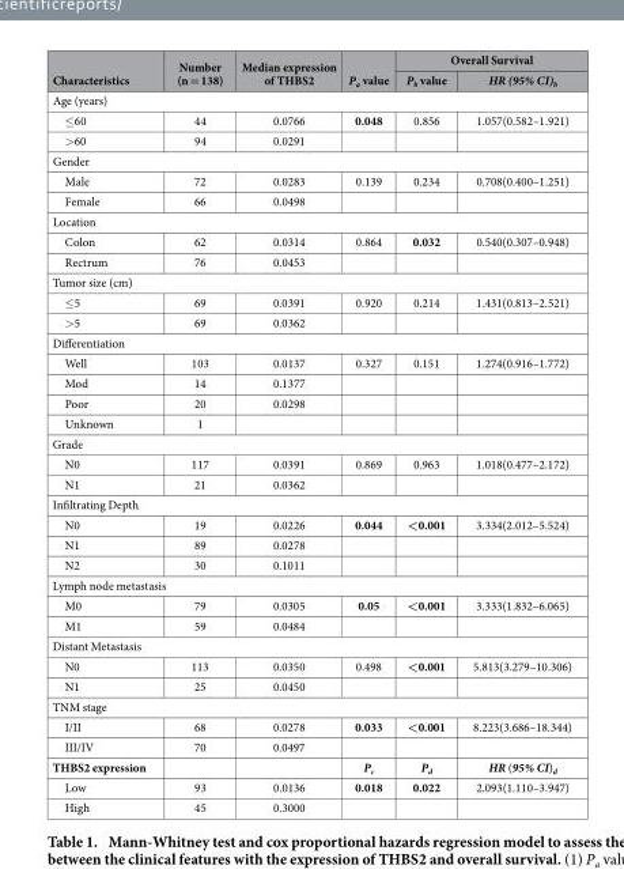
<table><thead><tr><td rowspan="2">Characteristics</td><td rowspan="2">Number (n = 138)</td><td rowspan="2">Median expression of THBS2</td><td rowspan="2">P<sub>a</sub> value</td><td colspan="2">Overall Survival</td></tr><tr><td>P<sub>b</sub> value</td><td>HR (95% CI)<sub>b</sub></td></tr></thead><tbody><tr><td colspan="6">Age (years)</td></tr><tr><td>≤ 60</td><td>44</td><td>0.0766</td><td>0.048</td><td>0.856</td><td>1.057(0.582–1.921)</td></tr><tr><td>&gt; 60</td><td>94</td><td>0.0291</td><td></td><td></td><td></td></tr><tr><td colspan="6">Gender</td></tr><tr><td>Male</td><td>72</td><td>0.0283</td><td>0.139</td><td>0.234</td><td>0.708(0.400–1.251)</td></tr><tr><td>Female</td><td>66</td><td>0.0498</td><td></td><td></td><td></td></tr><tr><td colspan="6">Location</td></tr><tr><td>Colon</td><td>62</td><td>0.0314</td><td>0.864</td><td>0.032</td><td>0.540(0.307–0.948)</td></tr><tr><td>Rectrum</td><td>76</td><td>0.0453</td><td></td><td></td><td></td></tr><tr><td colspan="6">Tumor size (cm)</td></tr><tr><td>≤ 5</td><td>69</td><td>0.0391</td><td>0.920</td><td>0.214</td><td>1.431(0.813–2.521)</td></tr><tr><td>&gt; 5</td><td>69</td><td>0.0362</td><td></td><td></td><td></td></tr><tr><td colspan="6">Differentiation</td></tr><tr><td>Well</td><td>103</td><td>0.0137</td><td>0.327</td><td>0.151</td><td>1.274(0.916–1.772)</td></tr><tr><td>Mod</td><td>14</td><td>0.1377</td><td></td><td></td><td></td></tr><tr><td>Poor</td><td>20</td><td>0.0298</td><td></td><td></td><td></td></tr><tr><td>Unknown</td><td>1</td><td></td><td></td><td></td><td></td></tr><tr><td colspan="6">Grade</td></tr><tr><td>N0</td><td>117</td><td>0.0391</td><td>0.869</td><td>0.963</td><td>1.018(0.477–2.172)</td></tr><tr><td>N1</td><td>21</td><td>0.0362</td><td></td><td></td><td></td></tr><tr><td colspan="6">Infiltrating Depth</td></tr><tr><td>N0</td><td>19</td><td>0.0226</td><td>0.044</td><td>&lt;0.001</td><td>3.334(2.012–5.524)</td></tr><tr><td>N1</td><td>89</td><td>0.0278</td><td></td><td></td><td></td></tr><tr><td>N2</td><td>30</td><td>0.1011</td><td></td><td></td><td></td></tr><tr><td colspan="6">Lymph node metastasis</td></tr><tr><td>M0</td><td>79</td><td>0.0305</td><td>0.05</td><td>&lt;0.001</td><td>3.333(1.832–6.065)</td></tr><tr><td>M1</td><td>59</td><td>0.0484</td><td></td><td></td><td></td></tr><tr><td colspan="6">Distant Metastasis</td></tr><tr><td>N0</td><td>113</td><td>0.0350</td><td>0.498</td><td>&lt;0.001</td><td>5.813(3.279–10.306)</td></tr><tr><td>N1</td><td>25</td><td>0.0450</td><td></td><td></td><td></td></tr><tr><td colspan="6">TNM stage</td></tr><tr><td>I/II</td><td>68</td><td>0.0278</td><td>0.033</td><td>&lt;0.001</td><td>8.223(3.686–18.344)</td></tr><tr><td>III/IV</td><td>70</td><td>0.0497</td><td></td><td></td><td></td></tr><tr><td>THBS2 expression</td><td></td><td></td><td>P<sub>c</sub></td><td>P<sub>d</sub></td><td>HR (95% CI)<sub>d</sub></td></tr><tr><td>Low</td><td>93</td><td>0.0136</td><td>0.018</td><td>0.022</td><td>2.093(1.110–3.947)</td></tr><tr><td>High</td><td>45</td><td>0.3000</td><td></td><td></td><td></td></tr></tbody></table>